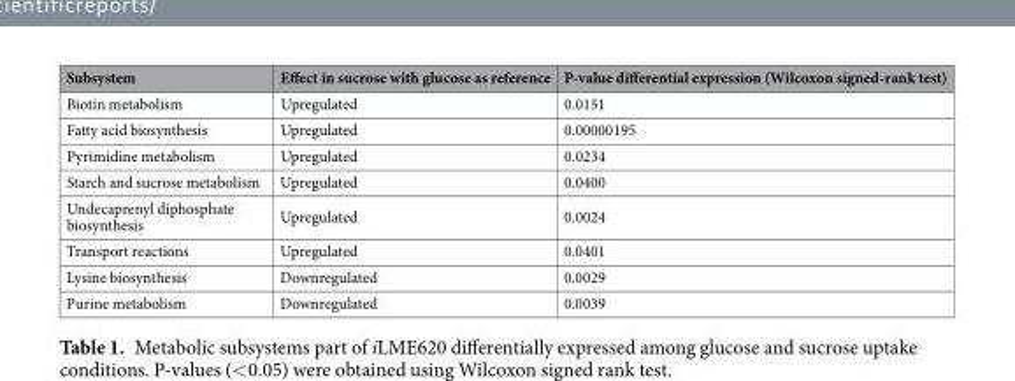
<table><thead><tr><td>Subsystem</td><td>Effect in sucrose with glucose as reference</td><td>P-value differential expression (Wilcoxon signed-rank test)</td></tr></thead><tbody><tr><td>Biotin metabolism</td><td>Upregulated</td><td>0.0151</td></tr><tr><td>Fatty acid biosynthesis</td><td>Upregulated</td><td>0.00000195</td></tr><tr><td>Pyrimidine metabolism</td><td>Upregulated</td><td>0.0234</td></tr><tr><td>Starch and sucrose metabolism</td><td>Upregulated</td><td>0.0400</td></tr><tr><td>Undecaprenyl diphosphate biosynthesis</td><td>Upregulated</td><td>0.0024</td></tr><tr><td>Transport reactions</td><td>Upregulated</td><td>0.0401</td></tr><tr><td>Lysine biosynthesis</td><td>Downregulated</td><td>0.0029</td></tr><tr><td>Purine metabolism</td><td>Downregulated</td><td>0.0039</td></tr></tbody></table>